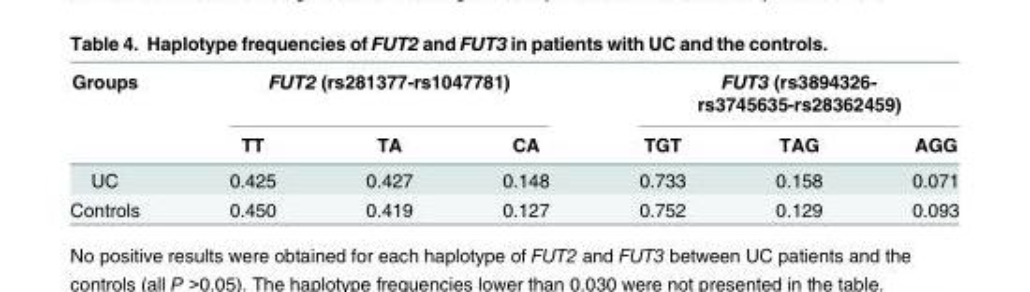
<table><thead><tr><td rowspan="2">Groups</td><td colspan="3">FUT2 (rs281377-rs1047781)</td><td colspan="3">FUT3 (rs3894326- rs3745635-rs28362459)</td></tr><tr><td>TT</td><td>TA</td><td>CA</td><td>TGT</td><td>TAG</td><td>AGG</td></tr></thead><tbody><tr><td>UC</td><td>0.425</td><td>0.427</td><td>0.148</td><td>0.733</td><td>0.158</td><td>0.071</td></tr><tr><td>Controls</td><td>0.450</td><td>0.419</td><td>0.127</td><td>0.752</td><td>0.129</td><td>0.093</td></tr></tbody></table>